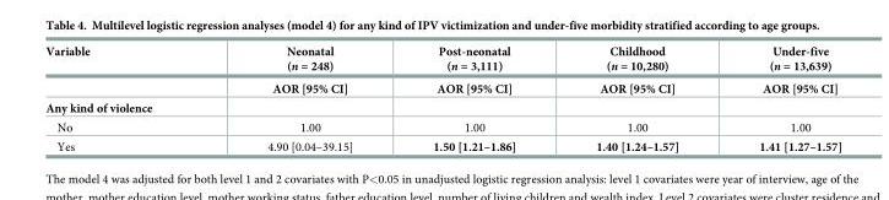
<table><thead><tr><td rowspan="2">Variable</td><td rowspan="2">Neonatal (n = 248) AOR [95% CI]</td><td rowspan="2">Post-neonatal (n = 3,111) AOR [95% CI]</td><td rowspan="2">Childhood (n = 10,280) AOR [95% CI]</td><td rowspan="2">Under-five (n = 13,639) AOR [95% CI]</td></tr><tr></tr></thead><tbody><tr><td colspan="5">Any kind of violence</td></tr><tr><td>No</td><td>1.00</td><td>1.00</td><td>1.00</td><td>1.00</td></tr><tr><td>Yes</td><td>4.90 [0.04–39.15]</td><td>1.50 [1.21–1.86]</td><td>1.40 [1.24–1.57]</td><td>1.41 [1.27–1.57]</td></tr></tbody></table>